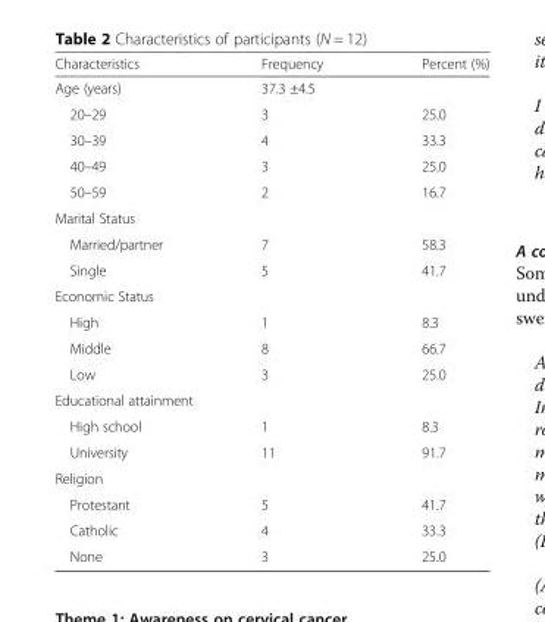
<table><thead><tr><td>Characteristics</td><td>Frequency</td><td>Percent (%)</td></tr></thead><tbody><tr><td>Age (years)</td><td>37.3 ±4.5</td><td></td></tr><tr><td>20–29</td><td>3</td><td>25.0</td></tr><tr><td>30–39</td><td>4</td><td>33.3</td></tr><tr><td>40–49</td><td>3</td><td>25.0</td></tr><tr><td>50–59</td><td>2</td><td>16.7</td></tr><tr><td colspan="3">Marital Status</td></tr><tr><td>Married/partner</td><td>7</td><td>58.3</td></tr><tr><td>Single</td><td>5</td><td>41.7</td></tr><tr><td colspan="3">Economic Status</td></tr><tr><td>High</td><td>1</td><td>8.3</td></tr><tr><td>Middle</td><td>8</td><td>66.7</td></tr><tr><td>Low</td><td>3</td><td>25.0</td></tr><tr><td colspan="3">Educational attainment</td></tr><tr><td>High school</td><td>1</td><td>8.3</td></tr><tr><td>University</td><td>11</td><td>91.7</td></tr><tr><td colspan="3">Religion</td></tr><tr><td>Protestant</td><td>5</td><td>41.7</td></tr><tr><td>Catholic</td><td>4</td><td>33.3</td></tr><tr><td>None</td><td>3</td><td>25.0</td></tr></tbody></table>